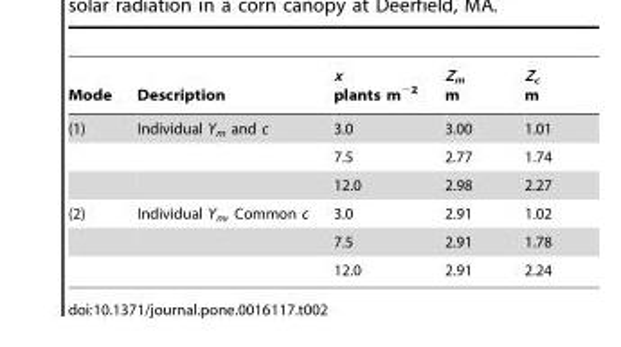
<table><thead><tr><td>Mode</td><td>Description</td><td>x plants m<sup>−2</sup></td><td>Z<sub>m</sub> m</td><td>Z<sub>c</sub> m</td></tr></thead><tbody><tr><td rowspan="3">(1)</td><td>Individual Y<sub>m</sub> and c</td><td>3.0</td><td>3.00</td><td>1.01</td></tr><tr><td></td><td>7.5</td><td>2.77</td><td>1.74</td></tr><tr><td></td><td>12.0</td><td>2.98</td><td>2.27</td></tr><tr><td rowspan="3">(2)</td><td>Individual Y<sub>m</sub>, Common c</td><td>3.0</td><td>2.91</td><td>1.02</td></tr><tr><td></td><td>7.5</td><td>2.91</td><td>1.78</td></tr><tr><td></td><td>12.0</td><td>2.91</td><td>2.24</td></tr></tbody></table>